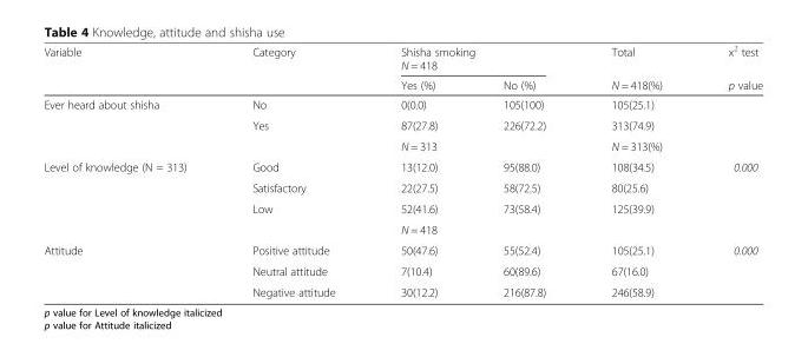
<table><thead><tr><td rowspan="2">Variable</td><td rowspan="2">Category</td><td colspan="2">Shisha smoking N = 418</td><td rowspan="2">Total N = 418(%)</td><td rowspan="2">x<sup>2</sup> test p value</td></tr><tr><td>Yes (%)</td><td>No (%)</td></tr></thead><tbody><tr><td rowspan="3">Ever heard about shisha</td><td>No</td><td>0(0.0)</td><td>105(100)</td><td>105(25.1)</td><td></td></tr><tr><td>Yes</td><td>87(27.8)</td><td>226(72.2)</td><td>313(74.9)</td><td></td></tr><tr><td></td><td>N = 313</td><td></td><td>N = 313(%)</td><td></td></tr><tr><td rowspan="4">Level of knowledge (N = 313)</td><td>Good</td><td>13(12.0)</td><td>95(88.0)</td><td>108(34.5)</td><td rowspan="3">0.000</td></tr><tr><td>Satisfactory</td><td>22(27.5)</td><td>58(72.5)</td><td>80(25.6)</td></tr><tr><td>Low</td><td>52(41.6)</td><td>73(58.4)</td><td>125(39.9)</td></tr><tr><td></td><td>N = 418</td><td></td><td></td><td></td></tr><tr><td rowspan="3">Attitude</td><td>Positive attitude</td><td>50(47.6)</td><td>55(52.4)</td><td>105(25.1)</td><td rowspan="3">0.000</td></tr><tr><td>Neutral attitude</td><td>7(10.4)</td><td>60(89.6)</td><td>67(16.0)</td></tr><tr><td>Negative attitude</td><td>30(12.2)</td><td>216(87.8)</td><td>246(58.9)</td></tr></tbody></table>